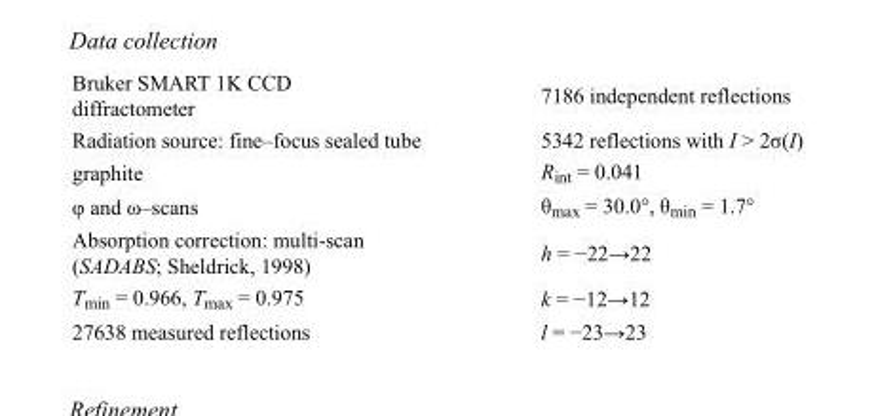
<table><tbody><tr><td>Bruker SMART 1K CCD diffractometer</td><td>7186 independent reflections</td></tr><tr><td>Radiation source: fine–focus sealed tube</td><td>5342 reflections with I &gt; 2σ(I)</td></tr><tr><td>graphite</td><td>R<sub>int</sub> = 0.041</td></tr><tr><td>φ and ω–scans</td><td>θ<sub>max</sub> = 30.0°, θ<sub>min</sub> = 1.7°</td></tr><tr><td>Absorption correction: multi-scan (SADABS; Sheldrick, 1998)</td><td>h = −22→22</td></tr><tr><td>T<sub>min</sub> = 0.966, T<sub>max</sub> = 0.975</td><td>k = −12→12</td></tr><tr><td>27638 measured reflections</td><td>l = −23→23</td></tr></tbody></table>